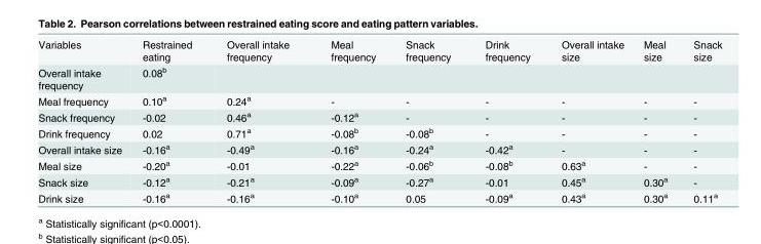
<table><tbody><tr><td>Variables</td><td>Restrained eating</td><td>Overall intake frequency</td><td>Meal frequency</td><td>Snack frequency</td><td>Drink frequency</td><td>Overall intake size</td><td>Meal size</td><td>Snack size</td></tr><tr><td>Overall intake frequency</td><td>0.08<sup>b</sup></td><td></td><td></td><td></td><td></td><td></td><td></td><td></td></tr><tr><td>Meal frequency</td><td>0.10<sup>a</sup></td><td>0.24<sup>a</sup></td><td>-</td><td>-</td><td>-</td><td>-</td><td>-</td><td>-</td></tr><tr><td>Snack frequency</td><td>-0.02</td><td>0.46<sup>a</sup></td><td>-0.12<sup>a</sup></td><td>-</td><td>-</td><td>-</td><td>-</td><td>-</td></tr><tr><td>Drink frequency</td><td>0.02</td><td>0.71<sup>a</sup></td><td>-0.08<sup>b</sup></td><td>-0.08<sup>b</sup></td><td>-</td><td>-</td><td>-</td><td>-</td></tr><tr><td>Overall intake size</td><td>-0.16<sup>a</sup></td><td>-0.49<sup>a</sup></td><td>-0.16<sup>a</sup></td><td>-0.24<sup>a</sup></td><td>-0.42<sup>a</sup></td><td>-</td><td>-</td><td>-</td></tr><tr><td>Meal size</td><td>-0.20<sup>a</sup></td><td>-0.01</td><td>-0.22<sup>a</sup></td><td>-0.06<sup>b</sup></td><td>-0.08<sup>b</sup></td><td>0.63<sup>a</sup></td><td>-</td><td>-</td></tr><tr><td>Snack size</td><td>-0.12<sup>a</sup></td><td>-0.21<sup>a</sup></td><td>-0.09<sup>a</sup></td><td>-0.27<sup>a</sup></td><td>-0.01</td><td>0.45<sup>a</sup></td><td>0.30<sup>a</sup></td><td>-</td></tr><tr><td>Drink size</td><td>-0.16<sup>a</sup></td><td>-0.16<sup>a</sup></td><td>-0.10<sup>a</sup></td><td>0.05</td><td>-0.09<sup>a</sup></td><td>0.43<sup>a</sup></td><td>0.30<sup>a</sup></td><td>0.11<sup>a</sup></td></tr></tbody></table>